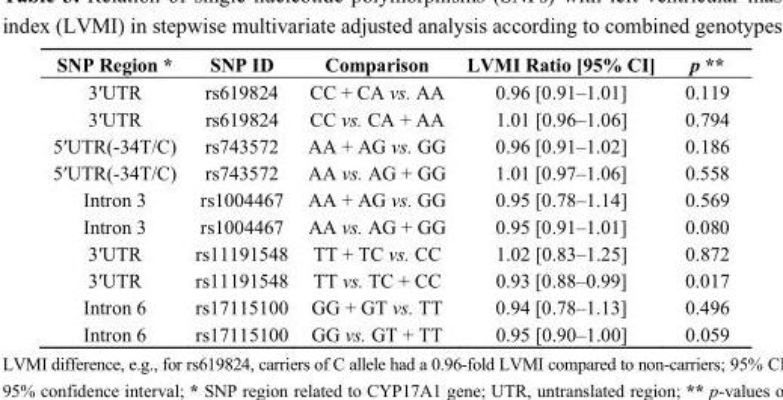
<table><thead><tr><td>SNP Region *</td><td>SNP ID</td><td>Comparison</td><td>LVMI Ratio [95% CI]</td><td>p **</td></tr></thead><tbody><tr><td>3ʹUTR</td><td>rs619824</td><td>CC + CA vs. AA</td><td>0.96 [0.91–1.01]</td><td>0.119</td></tr><tr><td>3ʹUTR</td><td>rs619824</td><td>CC vs. CA + AA</td><td>1.01 [0.96–1.06]</td><td>0.794</td></tr><tr><td>5ʹUTR(-34T/C)</td><td>rs743572</td><td>AA + AG vs. GG</td><td>0.96 [0.91–1.02]</td><td>0.186</td></tr><tr><td>5ʹUTR(-34T/C)</td><td>rs743572</td><td>AA vs. AG + GG</td><td>1.01 [0.97–1.06]</td><td>0.558</td></tr><tr><td>Intron 3</td><td>rs1004467</td><td>AA + AG vs. GG</td><td>0.95 [0.78–1.14]</td><td>0.569</td></tr><tr><td>Intron 3</td><td>rs1004467</td><td>AA vs. AG + GG</td><td>0.95 [0.91–1.01]</td><td>0.080</td></tr><tr><td>3ʹUTR</td><td>rs11191548</td><td>TT + TC vs. CC</td><td>1.02 [0.83–1.25]</td><td>0.872</td></tr><tr><td>3ʹUTR</td><td>rs11191548</td><td>TT vs. TC + CC</td><td>0.93 [0.88–0.99]</td><td>0.017</td></tr><tr><td>Intron 6</td><td>rs17115100</td><td>GG + GT vs. TT</td><td>0.94 [0.78–1.13]</td><td>0.496</td></tr><tr><td>Intron 6</td><td>rs17115100</td><td>GG vs. GT + TT</td><td>0.95 [0.90–1.00]</td><td>0.059</td></tr></tbody></table>